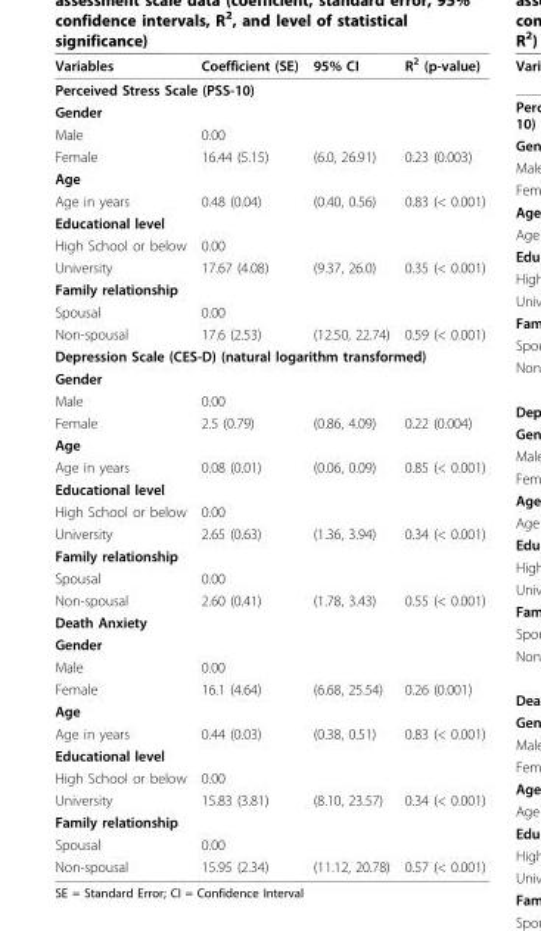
<table><thead><tr><td>Variables</td><td>Coefficient (SE)</td><td>95% CI</td><td>R<sup>2</sup> (p-value)</td></tr></thead><tbody><tr><td colspan="4">Perceived Stress Scale (PSS-10)</td></tr><tr><td colspan="4">Gender</td></tr><tr><td>Male</td><td>0.00</td><td></td><td></td></tr><tr><td>Female</td><td>16.44 (5.15)</td><td>(6.0, 26.91)</td><td>0.23 (0.003)</td></tr><tr><td colspan="4">Age</td></tr><tr><td>Age in years</td><td>0.48 (0.04)</td><td>(0.40, 0.56)</td><td>0.83 (&lt; 0.001)</td></tr><tr><td colspan="4">Educational level</td></tr><tr><td>High School or below</td><td>0.00</td><td></td><td></td></tr><tr><td>University</td><td>17.67 (4.08)</td><td>(9.37, 26.0)</td><td>0.35 (&lt; 0.001)</td></tr><tr><td colspan="4">Family relationship</td></tr><tr><td>Spousal</td><td>0.00</td><td></td><td></td></tr><tr><td>Non-spousal</td><td>17.6 (2.53)</td><td>(12.50, 22.74)</td><td>0.59 (&lt; 0.001)</td></tr><tr><td colspan="4">Depression Scale (CES-D) (natural logarithm transformed)</td></tr><tr><td colspan="4">Gender</td></tr><tr><td>Male</td><td>0.00</td><td></td><td></td></tr><tr><td>Female</td><td>2.5 (0.79)</td><td>(0.86, 4.09)</td><td>0.22 (0.004)</td></tr><tr><td colspan="4">Age</td></tr><tr><td>Age in years</td><td>0.08 (0.01)</td><td>(0.06, 0.09)</td><td>0.85 (&lt; 0.001)</td></tr><tr><td colspan="4">Educational level</td></tr><tr><td>High School or below</td><td>0.00</td><td></td><td></td></tr><tr><td>University</td><td>2.65 (0.63)</td><td>(1.36, 3.94)</td><td>0.34 (&lt; 0.001)</td></tr><tr><td colspan="4">Family relationship</td></tr><tr><td>Spousal</td><td>0.00</td><td></td><td></td></tr><tr><td>Non-spousal</td><td>2.60 (0.41)</td><td>(1.78, 3.43)</td><td>0.55 (&lt; 0.001)</td></tr><tr><td colspan="4">Death Anxiety</td></tr><tr><td colspan="4">Gender</td></tr><tr><td>Male</td><td>0.00</td><td></td><td></td></tr><tr><td>Female</td><td>16.1 (4.64)</td><td>(6.68, 25.54)</td><td>0.26 (0.001)</td></tr><tr><td colspan="4">Age</td></tr><tr><td>Age in years</td><td>0.44 (0.03)</td><td>(0.38, 0.51)</td><td>0.83 (&lt; 0.001)</td></tr><tr><td colspan="4">Educational level</td></tr><tr><td>High School or below</td><td>0.00</td><td></td><td></td></tr><tr><td>University</td><td>15.83 (3.81)</td><td>(8.10, 23.57)</td><td>0.34 (&lt; 0.001)</td></tr><tr><td colspan="4">Family relationship</td></tr><tr><td>Spousal</td><td>0.00</td><td></td><td></td></tr><tr><td>Non-spousal</td><td>15.95 (2.34)</td><td>(11.12, 20.78)</td><td>0.57 (&lt; 0.001)</td></tr></tbody></table>